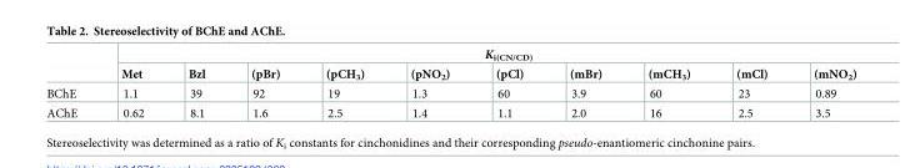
<table><thead><tr><td rowspan="2"></td><td colspan="10">K<sub>i(CN/CD)</sub></td></tr><tr><td>Met</td><td>Bzl</td><td>(pBr)</td><td>(pCH<sub>3</sub>)</td><td>(pNO<sub>2</sub>)</td><td>(pCl)</td><td>(mBr)</td><td>(mCH<sub>3</sub>)</td><td>(mCl)</td><td>(mNO<sub>2</sub>)</td></tr></thead><tbody><tr><td>BChE</td><td>1.1</td><td>39</td><td>92</td><td>19</td><td>1.3</td><td>60</td><td>3.9</td><td>60</td><td>23</td><td>0.89</td></tr><tr><td>AChE</td><td>0.62</td><td>8.1</td><td>1.6</td><td>2.5</td><td>1.4</td><td>1.1</td><td>2.0</td><td>16</td><td>2.5</td><td>3.5</td></tr></tbody></table>